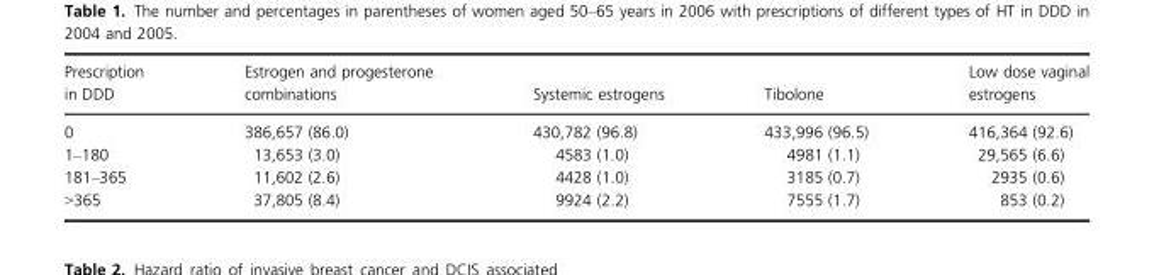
<table><thead><tr><td>Prescription in DDD</td><td>Estrogen and progesterone combinations</td><td>Systemic estrogens</td><td>Tibolone</td><td>Low dose vaginal estrogens</td></tr></thead><tbody><tr><td>0</td><td>386,657 (86.0)</td><td>430,782 (96.8)</td><td>433,996 (96.5)</td><td>416,364 (92.6)</td></tr><tr><td>1–180</td><td>13,653 (3.0)</td><td>4583 (1.0)</td><td>4981 (1.1)</td><td>29,565 (6.6)</td></tr><tr><td>181–365</td><td>11,602 (2.6)</td><td>4428 (1.0)</td><td>3185 (0.7)</td><td>2935 (0.6)</td></tr><tr><td>&gt;365</td><td>37,805 (8.4)</td><td>9924 (2.2)</td><td>7555 (1.7)</td><td>853 (0.2)</td></tr></tbody></table>